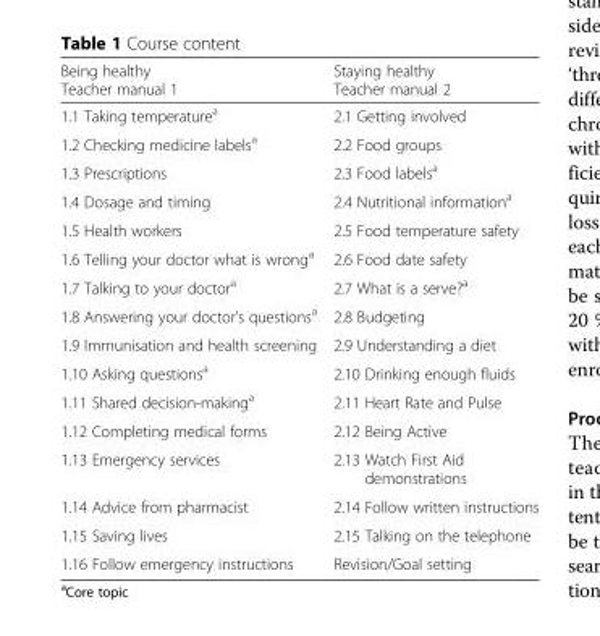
<table><thead><tr><td>Being healthy Teacher manual 1</td><td>Staying healthy Teacher manual 2</td></tr></thead><tbody><tr><td>1.1 Taking temperature<sup>a</sup></td><td>2.1 Getting involved</td></tr><tr><td>1.2 Checking medicine labels<sup>a</sup></td><td>2.2 Food groups</td></tr><tr><td>1.3 Prescriptions</td><td>2.3 Food labels<sup>a</sup></td></tr><tr><td>1.4 Dosage and timing</td><td>2.4 Nutritional information<sup>a</sup></td></tr><tr><td>1.5 Health workers</td><td>2.5 Food temperature safety</td></tr><tr><td>1.6 Telling your doctor what is wrong<sup>a</sup></td><td>2.6 Food date safety</td></tr><tr><td>1.7 Talking to your doctor<sup>a</sup></td><td>2.7 What is a serve?<sup>a</sup></td></tr><tr><td>1.8 Answering your doctor’s questions<sup>a</sup></td><td>2.8 Budgeting</td></tr><tr><td>1.9 Immunisation and health screening</td><td>2.9 Understanding a diet</td></tr><tr><td>1.10 Asking questions<sup>a</sup></td><td>2.10 Drinking enough fluids</td></tr><tr><td>1.11 Shared decision-making<sup>a</sup></td><td>2.11 Heart Rate and Pulse</td></tr><tr><td>1.12 Completing medical forms</td><td>2.12 Being Active</td></tr><tr><td>1.13 Emergency services</td><td>2.13 Watch First Aid demonstrations</td></tr><tr><td>1.14 Advice from pharmacist</td><td>2.14 Follow written instructions</td></tr><tr><td>1.15 Saving lives</td><td>2.15 Talking on the telephone</td></tr><tr><td>1.16 Follow emergency instructions</td><td>Revision/Goal setting</td></tr></tbody></table>